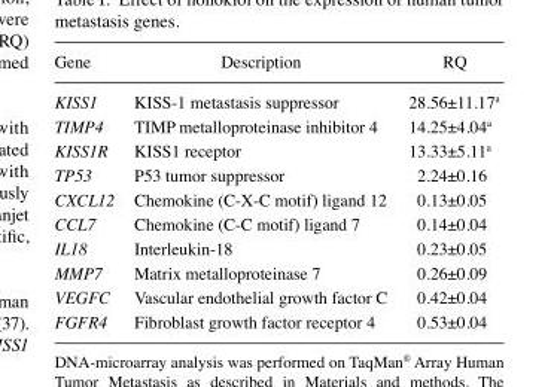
<table><thead><tr><td>Gene</td><td>Description</td><td>RQ</td></tr></thead><tbody><tr><td>KISS1</td><td>KISS-1 metastasis suppressor</td><td>28.56±11.17<sup>a</sup></td></tr><tr><td>TIMP4</td><td>TIMP metalloproteinase inhibitor 4</td><td>14.25±4.04<sup>a</sup></td></tr><tr><td>KISS1R</td><td>KISS1 receptor</td><td>13.33±5.11<sup>a</sup></td></tr><tr><td>TP53</td><td>P53 tumor suppressor</td><td>2.24±0.16</td></tr><tr><td>CXCL12</td><td>Chemokine (C-X-C motif) ligand 12</td><td>0.13±0.05</td></tr><tr><td>CCL7</td><td>Chemokine (C-C motif) ligand 7</td><td>0.14±0.04</td></tr><tr><td>IL18</td><td>Interleukin-18</td><td>0.23±0.05</td></tr><tr><td>MMP7</td><td>Matrix metalloproteinase 7</td><td>0.26±0.09</td></tr><tr><td>VEGFC</td><td>Vascular endothelial growth factor C</td><td>0.42±0.04</td></tr><tr><td>FGFR4</td><td>Fibroblast growth factor receptor 4</td><td>0.53±0.04</td></tr></tbody></table>